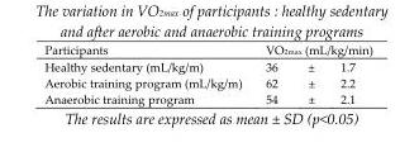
<table><thead><tr><td>Participants</td><td>VO<sub>2max</sub> (mL/kg/min)</td></tr></thead><tbody><tr><td>Healthy sedentary (mL/kg/m)</td><td>36 ± 1.7</td></tr><tr><td>Aerobic training program (mL/kg/m)</td><td>62 ± 2.2</td></tr><tr><td>Anaerobic training program</td><td>54 ± 2.1</td></tr></tbody></table>